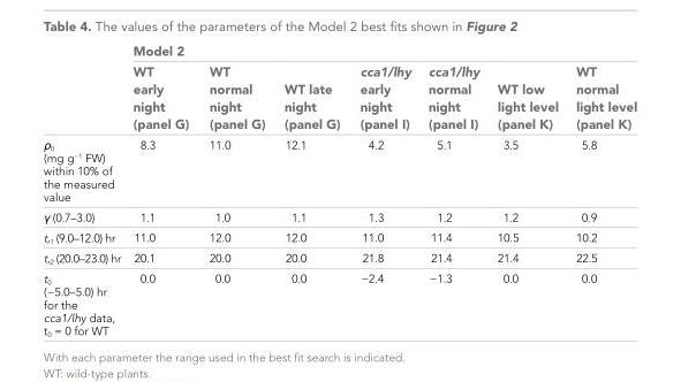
<table><thead><tr><td rowspan="2"></td><td colspan="7">Model 2</td></tr><tr><td>WT early night (panel G)</td><td>WT normal night (panel G)</td><td>WT late night (panel G)</td><td>cca1/lhy early night (panel I)</td><td>cca1/lhy normal night (panel I)</td><td>WT low light level (panel K)</td><td>WT normal light level (panel K)</td></tr></thead><tbody><tr><td>ρ<sub>0</sub> (mg g<sup>−1</sup> FW) within 10% of the measured value</td><td>8.3</td><td>11.0</td><td>12.1</td><td>4.2</td><td>5.1</td><td>3.5</td><td>5.8</td></tr><tr><td>γ (0.7–3.0)</td><td>1.1</td><td>1.0</td><td>1.1</td><td>1.3</td><td>1.2</td><td>1.2</td><td>0.9</td></tr><tr><td>t<sub>r1</sub> (9.0–12.0) hr</td><td>11.0</td><td>12.0</td><td>12.0</td><td>11.0</td><td>11.4</td><td>10.5</td><td>10.2</td></tr><tr><td>t<sub>r2</sub> (20.0–23.0) hr</td><td>20.1</td><td>20.0</td><td>20.0</td><td>21.8</td><td>21.4</td><td>21.4</td><td>22.5</td></tr><tr><td>t<sub>0</sub> (−5.0–5.0) hr for the cca1/lhy data, t<sub>0</sub> = 0 for WT</td><td>0.0</td><td>0.0</td><td>0.0</td><td>−2.4</td><td>−1.3</td><td>0.0</td><td>0.0</td></tr></tbody></table>